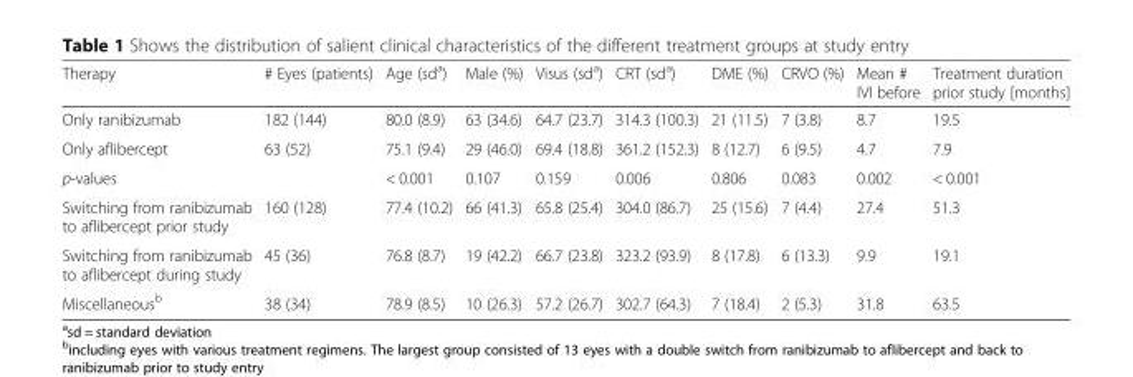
<table><thead><tr><td>Therapy</td><td># Eyes (patients)</td><td>Age (sd<sup>a</sup>)</td><td>Male (%)</td><td>Visus (sd<sup>a</sup>)</td><td>CRT (sd<sup>a</sup>)</td><td>DME (%)</td><td>CRVO (%)</td><td>Mean # IVI before</td><td>Treatment duration prior study [months]</td></tr></thead><tbody><tr><td>Only ranibizumab</td><td>182 (144)</td><td>80.0 (8.9)</td><td>63 (34.6)</td><td>64.7 (23.7)</td><td>314.3 (100.3)</td><td>21 (11.5)</td><td>7 (3.8)</td><td>8.7</td><td>19.5</td></tr><tr><td>Only aflibercept</td><td>63 (52)</td><td>75.1 (9.4)</td><td>29 (46.0)</td><td>69.4 (18.8)</td><td>361.2 (152.3)</td><td>8 (12.7)</td><td>6 (9.5)</td><td>4.7</td><td>7.9</td></tr><tr><td>p-values</td><td></td><td>&lt; 0.001</td><td>0.107</td><td>0.159</td><td>0.006</td><td>0.806</td><td>0.083</td><td>0.002</td><td>&lt; 0.001</td></tr><tr><td>Switching from ranibizumab to aflibercept prior study</td><td>160 (128)</td><td>77.4 (10.2)</td><td>66 (41.3)</td><td>65.8 (25.4)</td><td>304.0 (86.7)</td><td>25 (15.6)</td><td>7 (4.4)</td><td>27.4</td><td>51.3</td></tr><tr><td>Switching from ranibizumab to aflibercept during study</td><td>45 (36)</td><td>76.8 (8.7)</td><td>19 (42.2)</td><td>66.7 (23.8)</td><td>323.2 (93.9)</td><td>8 (17.8)</td><td>6 (13.3)</td><td>9.9</td><td>19.1</td></tr><tr><td>Miscellaneous<sup>b</sup></td><td>38 (34)</td><td>78.9 (8.5)</td><td>10 (26.3)</td><td>57.2 (26.7)</td><td>302.7 (64.3)</td><td>7 (18.4)</td><td>2 (5.3)</td><td>31.8</td><td>63.5</td></tr></tbody></table>